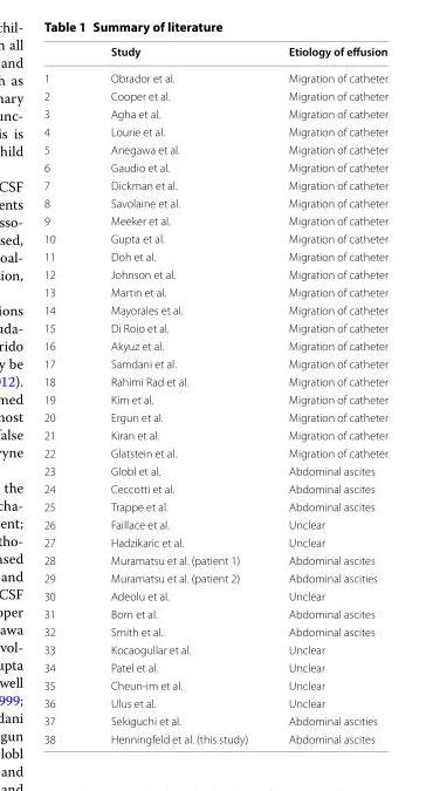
<table><thead><tr><td></td><td>Study</td><td>Etiology of effusion</td></tr></thead><tbody><tr><td>1</td><td>Obrador et al.</td><td>Migration of catheter</td></tr><tr><td>2</td><td>Cooper et al.</td><td>Migration of catheter</td></tr><tr><td>3</td><td>Agha et al.</td><td>Migration of catheter</td></tr><tr><td>4</td><td>Lourie et al.</td><td>Migration of catheter</td></tr><tr><td>5</td><td>Anegawa et al.</td><td>Migration of catheter</td></tr><tr><td>6</td><td>Gaudio et al.</td><td>Migration of catheter</td></tr><tr><td>7</td><td>Dickman et al.</td><td>Migration of catheter</td></tr><tr><td>8</td><td>Savolaine et al.</td><td>Migration of catheter</td></tr><tr><td>9</td><td>Meeker et al.</td><td>Migration of catheter</td></tr><tr><td>10</td><td>Gupta et al.</td><td>Migration of catheter</td></tr><tr><td>11</td><td>Doh et al.</td><td>Migration of catheter</td></tr><tr><td>12</td><td>Johnson et al.</td><td>Migration of catheter</td></tr><tr><td>13</td><td>Martin et al.</td><td>Migration of catheter</td></tr><tr><td>14</td><td>Mayorales et al.</td><td>Migration of catheter</td></tr><tr><td>15</td><td>Di Roio et al.</td><td>Migration of catheter</td></tr><tr><td>16</td><td>Akyuz et al.</td><td>Migration of catheter</td></tr><tr><td>17</td><td>Samdani et al.</td><td>Migration of catheter</td></tr><tr><td>18</td><td>Rahimi Rad et al.</td><td>Migration of catheter</td></tr><tr><td>19</td><td>Kim et al.</td><td>Migration of catheter</td></tr><tr><td>20</td><td>Ergun et al.</td><td>Migration of catheter</td></tr><tr><td>21</td><td>Kiran et al.</td><td>Migration of catheter</td></tr><tr><td>22</td><td>Glatstein et al.</td><td>Migration of catheter</td></tr><tr><td>23</td><td>Globl et al.</td><td>Abdominal ascites</td></tr><tr><td>24</td><td>Ceccotti et al.</td><td>Abdominal ascites</td></tr><tr><td>25</td><td>Trappe et al.</td><td>Abdominal ascites</td></tr><tr><td>26</td><td>Faillace et al.</td><td>Unclear</td></tr><tr><td>27</td><td>Hadzikaric et al.</td><td>Unclear</td></tr><tr><td>28</td><td>Muramatsu et al. (patient 1)</td><td>Abdominal ascites</td></tr><tr><td>29</td><td>Muramatsu et al. (patient 2)</td><td>Abdominal ascities</td></tr><tr><td>30</td><td>Adeolu et al.</td><td>Unclear</td></tr><tr><td>31</td><td>Born et al.</td><td>Abdominal ascites</td></tr><tr><td>32</td><td>Smith et al.</td><td>Abdominal ascites</td></tr><tr><td>33</td><td>Kocaogullar et al.</td><td>Unclear</td></tr><tr><td>34</td><td>Patel et al.</td><td>Unclear</td></tr><tr><td>35</td><td>Cheun-im et al.</td><td>Unclear</td></tr><tr><td>36</td><td>Ulus et al.</td><td>Unclear</td></tr><tr><td>37</td><td>Sekiguchi et al.</td><td>Abdominal ascities</td></tr><tr><td>38</td><td>Henningfeld et al. (this study)</td><td>Abdominal ascites</td></tr></tbody></table>